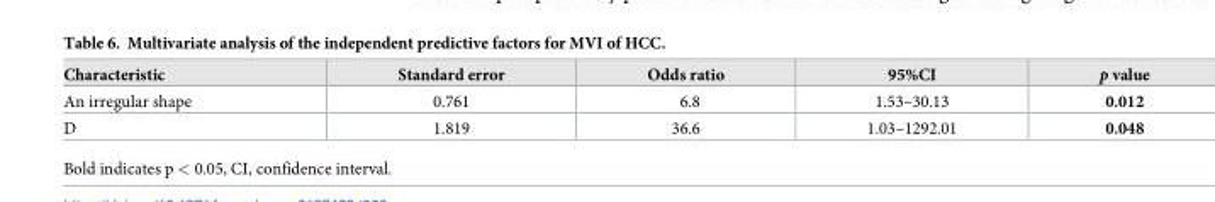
<table><thead><tr><td>Characteristic</td><td>Standard error</td><td>Odds ratio</td><td>95%CI</td><td>p value</td></tr></thead><tbody><tr><td>An irregular shape</td><td>0.761</td><td>6.8</td><td>1.53–30.13</td><td>0.012</td></tr><tr><td>D</td><td>1.819</td><td>36.6</td><td>1.03–1292.01</td><td>0.048</td></tr></tbody></table>